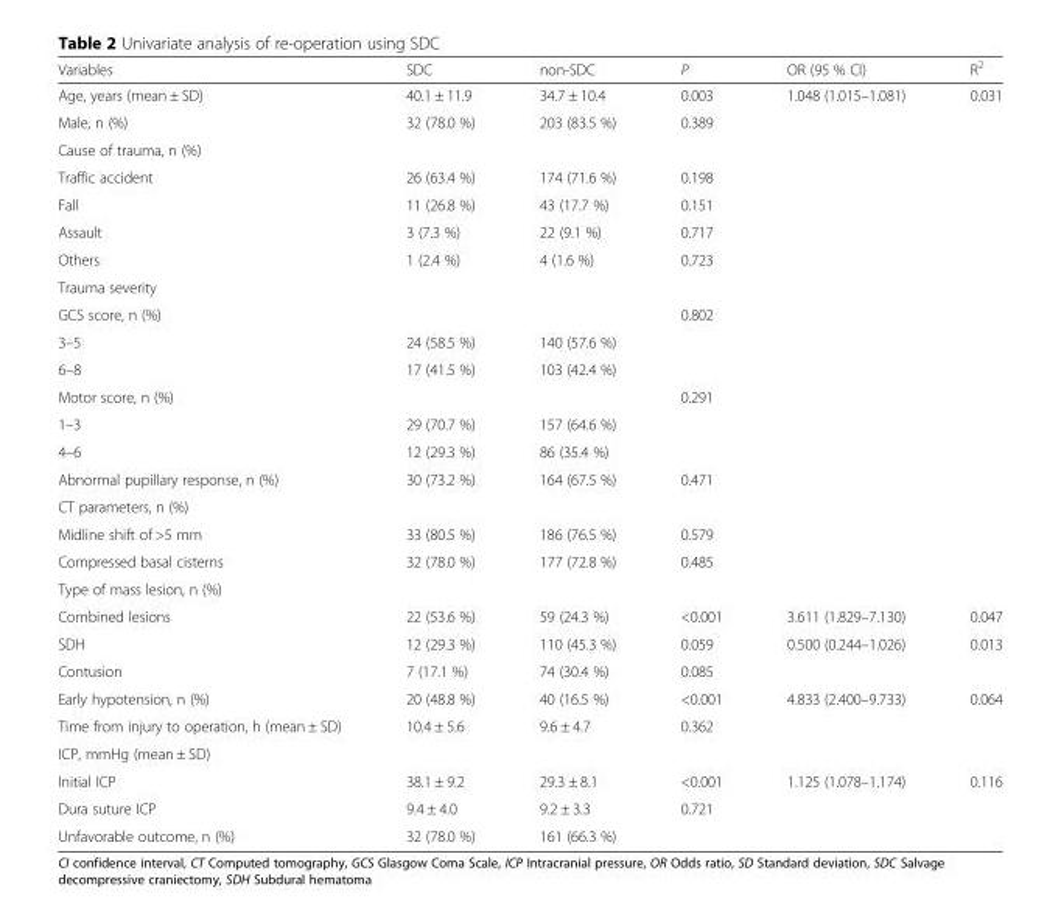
<table><thead><tr><td>Variables</td><td>SDC</td><td>non-SDC</td><td>P</td><td>OR (95 % CI)</td><td>R<sup>2</sup></td></tr></thead><tbody><tr><td>Age, years (mean ± SD)</td><td>40.1 ± 11.9</td><td>34.7 ± 10.4</td><td>0.003</td><td>1.048 (1.015–1.081)</td><td>0.031</td></tr><tr><td>Male, n (%)</td><td>32 (78.0 %)</td><td>203 (83.5 %)</td><td>0.389</td><td></td><td></td></tr><tr><td colspan="6">Cause of trauma, n (%)</td></tr><tr><td>Traffic accident</td><td>26 (63.4 %)</td><td>174 (71.6 %)</td><td>0.198</td><td></td><td></td></tr><tr><td>Fall</td><td>11 (26.8 %)</td><td>43 (17.7 %)</td><td>0.151</td><td></td><td></td></tr><tr><td>Assault</td><td>3 (7.3 %)</td><td>22 (9.1 %)</td><td>0.717</td><td></td><td></td></tr><tr><td>Others</td><td>1 (2.4 %)</td><td>4 (1.6 %)</td><td>0.723</td><td></td><td></td></tr><tr><td colspan="6">Trauma severity</td></tr><tr><td>GCS score, n (%)</td><td></td><td></td><td>0.802</td><td></td><td></td></tr><tr><td>3–5</td><td>24 (58.5 %)</td><td>140 (57.6 %)</td><td></td><td></td><td></td></tr><tr><td>6–8</td><td>17 (41.5 %)</td><td>103 (42.4 %)</td><td></td><td></td><td></td></tr><tr><td>Motor score, n (%)</td><td></td><td></td><td>0.291</td><td></td><td></td></tr><tr><td>1–3</td><td>29 (70.7 %)</td><td>157 (64.6 %)</td><td></td><td></td><td></td></tr><tr><td>4–6</td><td>12 (29.3 %)</td><td>86 (35.4 %)</td><td></td><td></td><td></td></tr><tr><td>Abnormal pupillary response, n (%)</td><td>30 (73.2 %)</td><td>164 (67.5 %)</td><td>0.471</td><td></td><td></td></tr><tr><td colspan="6">CT parameters, n (%)</td></tr><tr><td>Midline shift of &gt;5 mm</td><td>33 (80.5 %)</td><td>186 (76.5 %)</td><td>0.579</td><td></td><td></td></tr><tr><td>Compressed basal cisterns</td><td>32 (78.0 %)</td><td>177 (72.8 %)</td><td>0.485</td><td></td><td></td></tr><tr><td colspan="6">Type of mass lesion, n (%)</td></tr><tr><td>Combined lesions</td><td>22 (53.6 %)</td><td>59 (24.3 %)</td><td>&lt;0.001</td><td>3.611 (1.829–7.130)</td><td>0.047</td></tr><tr><td>SDH</td><td>12 (29.3 %)</td><td>110 (45.3 %)</td><td>0.059</td><td>0.500 (0.244–1.026)</td><td>0.013</td></tr><tr><td>Contusion</td><td>7 (17.1 %)</td><td>74 (30.4 %)</td><td>0.085</td><td></td><td></td></tr><tr><td>Early hypotension, n (%)</td><td>20 (48.8 %)</td><td>40 (16.5 %)</td><td>&lt;0.001</td><td>4.833 (2.400–9.733)</td><td>0.064</td></tr><tr><td>Time from injury to operation, h (mean ± SD)</td><td>10.4 ± 5.6</td><td>9.6 ± 4.7</td><td>0.362</td><td></td><td></td></tr><tr><td colspan="6">ICP, mmHg (mean ± SD)</td></tr><tr><td>Initial ICP</td><td>38.1 ± 9.2</td><td>29.3 ± 8.1</td><td>&lt;0.001</td><td>1.125 (1.078–1.174)</td><td>0.116</td></tr><tr><td>Dura suture ICP</td><td>9.4 ± 4.0</td><td>9.2 ± 3.3</td><td>0.721</td><td></td><td></td></tr><tr><td>Unfavorable outcome, n (%)</td><td>32 (78.0 %)</td><td>161 (66.3 %)</td><td></td><td></td><td></td></tr></tbody></table>